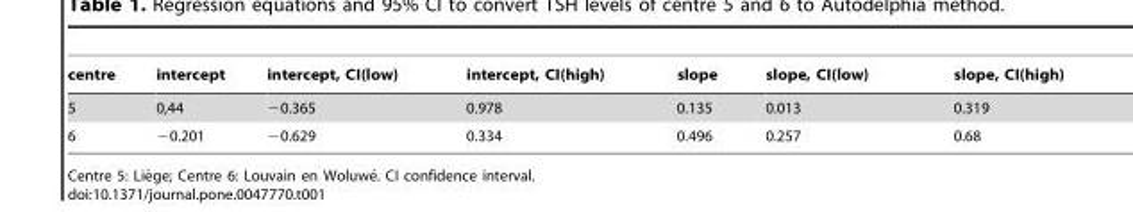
<table><thead><tr><td>centre</td><td>intercept</td><td>intercept, CI(low)</td><td>intercept, CI(high)</td><td>slope</td><td>slope, CI(low)</td><td>slope, CI(high)</td></tr></thead><tbody><tr><td>5</td><td>0,44</td><td>−0.365</td><td>0.978</td><td>0.135</td><td>0.013</td><td>0.319</td></tr><tr><td>6</td><td>−0.201</td><td>−0.629</td><td>0.334</td><td>0.496</td><td>0.257</td><td>0.68</td></tr></tbody></table>